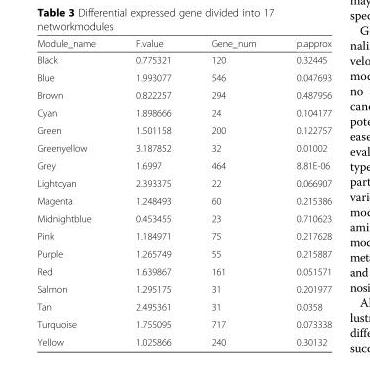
<table><thead><tr><td>Module_name</td><td>F.value</td><td>Gene_num</td><td>p.approx</td></tr></thead><tbody><tr><td>Black</td><td>0.775321</td><td>120</td><td>0.32445</td></tr><tr><td>Blue</td><td>1.993077</td><td>546</td><td>0.047693</td></tr><tr><td>Brown</td><td>0.822257</td><td>294</td><td>0.487956</td></tr><tr><td>Cyan</td><td>1.898666</td><td>24</td><td>0.104177</td></tr><tr><td>Green</td><td>1.501158</td><td>200</td><td>0.122757</td></tr><tr><td>Greenyellow</td><td>3.187852</td><td>32</td><td>0.01002</td></tr><tr><td>Grey</td><td>1.6997</td><td>464</td><td>8.81E-06</td></tr><tr><td>Lightcyan</td><td>2.393375</td><td>22</td><td>0.066907</td></tr><tr><td>Magenta</td><td>1.248493</td><td>60</td><td>0.215386</td></tr><tr><td>Midnightblue</td><td>0.453455</td><td>23</td><td>0.710623</td></tr><tr><td>Pink</td><td>1.184971</td><td>75</td><td>0.217628</td></tr><tr><td>Purple</td><td>1.265749</td><td>55</td><td>0.215887</td></tr><tr><td>Red</td><td>1.639867</td><td>161</td><td>0.051571</td></tr><tr><td>Salmon</td><td>1.295175</td><td>31</td><td>0.201977</td></tr><tr><td>Tan</td><td>2.495361</td><td>31</td><td>0.0358</td></tr><tr><td>Turquoise</td><td>1.755095</td><td>717</td><td>0.073338</td></tr><tr><td>Yellow</td><td>1.025866</td><td>240</td><td>0.30132</td></tr></tbody></table>